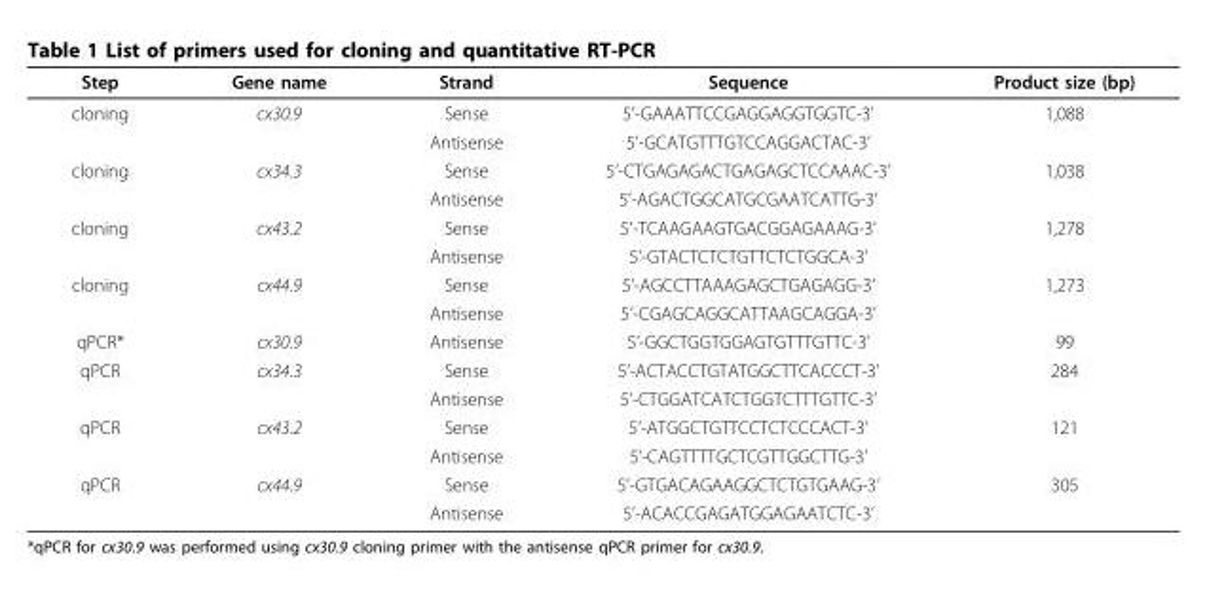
<table><thead><tr><td>Step</td><td>Gene name</td><td>Strand</td><td>Sequence</td><td>Product size (bp)</td></tr></thead><tbody><tr><td rowspan="2">cloning</td><td>cx30.9</td><td>Sense</td><td>5’-GAAATTCCGAGGAGGTGGTC-3’</td><td>1,088</td></tr><tr><td></td><td>Antisense</td><td>5’-GCATGTTTGTCCAGGACTAC-3’</td><td></td></tr><tr><td rowspan="2">cloning</td><td>cx34.3</td><td>Sense</td><td>5’-CTGAGAGACTGAGAGCTCCAAAC-3’</td><td>1,038</td></tr><tr><td></td><td>Antisense</td><td>5’-AGACTGGCATGCGAATCATTG-3’</td><td></td></tr><tr><td rowspan="2">cloning</td><td>cx43.2</td><td>Sense</td><td>5’-TCAAGAAGTGACGGAGAAAG-3’</td><td>1,278</td></tr><tr><td></td><td>Antisense</td><td>5’-GTACTCTCTGTTCTCTGGCA-3’</td><td></td></tr><tr><td rowspan="2">cloning</td><td>cx44.9</td><td>Sense</td><td>5’-AGCCTTAAAGAGCTGAGAGG-3’</td><td>1,273</td></tr><tr><td></td><td>Antisense</td><td>5’-CGAGCAGGCATTAAGCAGGA-3’</td><td></td></tr><tr><td>qPCR*</td><td>cx30.9</td><td>Antisense</td><td>5’-GGCTGGTGGAGTGTTTGTTC-3’</td><td>99</td></tr><tr><td rowspan="2">qPCR</td><td>cx34.3</td><td>Sense</td><td>5’-ACTACCTGTATGGCTTCACCCT-3’</td><td>284</td></tr><tr><td></td><td>Antisense</td><td>5’-CTGGATCATCTGGTCTTTGTTC-3’</td><td></td></tr><tr><td rowspan="2">qPCR</td><td>cx43.2</td><td>Sense</td><td>5’-ATGGCTGTTCCTCTCCCACT-3’</td><td>121</td></tr><tr><td></td><td>Antisense</td><td>5’-CAGTTTTGCTCGTTGGCTTG-3’</td><td></td></tr><tr><td rowspan="2">qPCR</td><td>cx44.9</td><td>Sense</td><td>5’-GTGACAGAAGGCTCTGTGAAG-3’</td><td>305</td></tr><tr><td></td><td>Antisense</td><td>5’-ACACCGAGATGGAGAATCTC-3’</td><td></td></tr></tbody></table>